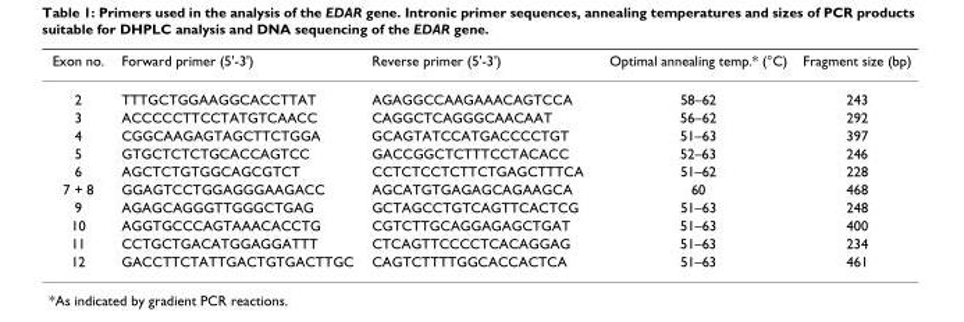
<table><thead><tr><td>Exon no.</td><td>Forward primer (5&#x27;-3&#x27;)</td><td>Reverse primer (5&#x27;-3&#x27;)</td><td>Optimal annealing temp.* (°C)</td><td>Fragment size (bp)</td></tr></thead><tbody><tr><td>2</td><td>TTTGCTGGAAGGCACCTTAT</td><td>AGAGGCCAAGAAACAGTCCA</td><td>58–62</td><td>243</td></tr><tr><td>3</td><td>ACCCCCTTCCTATGTCAACC</td><td>CAGGCTCAGGGCAACAAT</td><td>56–62</td><td>292</td></tr><tr><td>4</td><td>CGGCAAGAGTAGCTTCTGGA</td><td>GCAGTATCCATGACCCCTGT</td><td>51–63</td><td>397</td></tr><tr><td>5</td><td>GTGCTCTCTGCACCAGTCC</td><td>GACCGGCTCTTTCCTACACC</td><td>52–63</td><td>246</td></tr><tr><td>6</td><td>AGCTCTGTGGCAGCGTCT</td><td>CCTCTCCTCTTCTGAGCTTTCA</td><td>51–62</td><td>228</td></tr><tr><td>7 + 8</td><td>GGAGTCCTGGAGGGAAGACC</td><td>AGCATGTGAGAGCAGAAGCA</td><td>60</td><td>468</td></tr><tr><td>9</td><td>AGAGCAGGGTTGGGCTGAG</td><td>GCTAGCCTGTCAGTTCACTCG</td><td>51–63</td><td>248</td></tr><tr><td>10</td><td>AGGTGCCCAGTAAACACCTG</td><td>CGTCTTGCAGGAGAGCTGAT</td><td>51–63</td><td>400</td></tr><tr><td>11</td><td>CCTGCTGACATGGAGGATTT</td><td>CTCAGTTCCCCTCACAGGAG</td><td>51–63</td><td>234</td></tr><tr><td>12</td><td>GACCTTCTATTGACTGTGACTTGC</td><td>CAGTCTTTTGGCACCACTCA</td><td>51–63</td><td>461</td></tr></tbody></table>